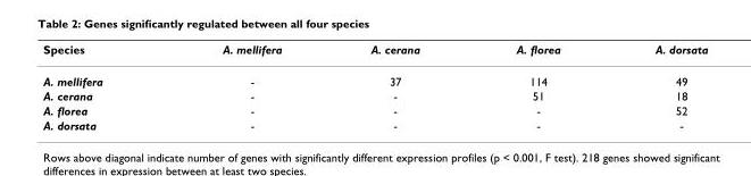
<table><thead><tr><td>Species</td><td>A. mellifera</td><td>A. cerana</td><td>A. florea</td><td>A. dorsata</td></tr></thead><tbody><tr><td>A. mellifera</td><td>-</td><td>37</td><td>114</td><td>49</td></tr><tr><td>A. cerana</td><td>-</td><td>-</td><td>51</td><td>18</td></tr><tr><td>A. florea</td><td>-</td><td>-</td><td>-</td><td>52</td></tr><tr><td>A. dorsata</td><td>-</td><td>-</td><td>-</td><td>-</td></tr></tbody></table>